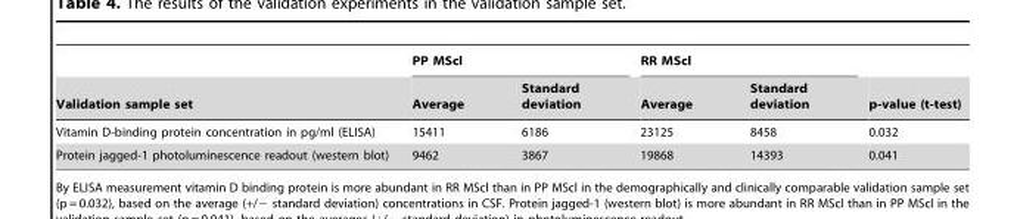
<table><thead><tr><td rowspan="2">Validation sample set</td><td colspan="2">PP MScl</td><td colspan="2">RR MScl</td><td rowspan="2">p-value (t-test)</td></tr><tr><td>Average</td><td>Standard deviation</td><td>Average</td><td>Standard deviation</td></tr></thead><tbody><tr><td>Vitamin D-binding protein concentration in pg/ml (ELISA)</td><td>15411</td><td>6186</td><td>23125</td><td>8458</td><td>0.032</td></tr><tr><td>Protein jagged-1 photoluminescence readout (western blot)</td><td>9462</td><td>3867</td><td>19868</td><td>14393</td><td>0.041</td></tr></tbody></table>